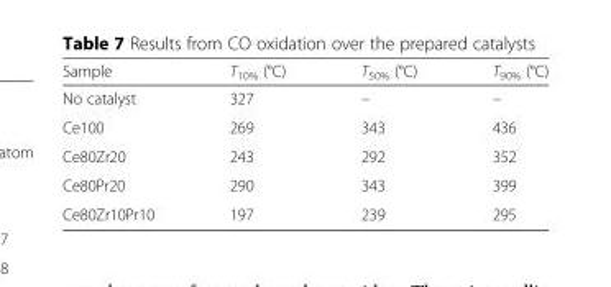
<table><thead><tr><td>Sample</td><td>T<sub>10%</sub> (°C)</td><td>T<sub>50%</sub> (°C)</td><td>T<sub>90%</sub> (°C)</td></tr></thead><tbody><tr><td>No catalyst</td><td>327</td><td>–</td><td>–</td></tr><tr><td>Ce100</td><td>269</td><td>343</td><td>436</td></tr><tr><td>Ce80Zr20</td><td>243</td><td>292</td><td>352</td></tr><tr><td>Ce80Pr20</td><td>290</td><td>343</td><td>399</td></tr><tr><td>Ce80Zr10Pr10</td><td>197</td><td>239</td><td>295</td></tr></tbody></table>